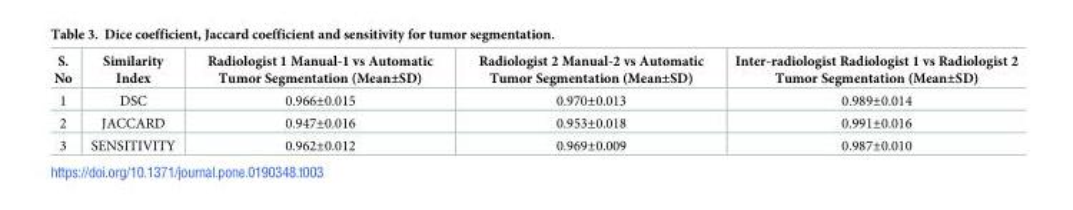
<table><thead><tr><td>S. No</td><td>Similarity Index</td><td>Radiologist 1 Manual-1 vs Automatic Tumor Segmentation (Mean±SD)</td><td>Radiologist 2 Manual-2 vs Automatic Tumor Segmentation (Mean±SD)</td><td>Inter-radiologist Radiologist 1 vs Radiologist 2 Tumor Segmentation (Mean±SD)</td></tr></thead><tbody><tr><td>1</td><td>DSC</td><td>0.966±0.015</td><td>0.970±0.013</td><td>0.989±0.014</td></tr><tr><td>2</td><td>JACCARD</td><td>0.947±0.016</td><td>0.953±0.018</td><td>0.991±0.016</td></tr><tr><td>3</td><td>SENSITIVITY</td><td>0.962±0.012</td><td>0.969±0.009</td><td>0.987±0.010</td></tr></tbody></table>